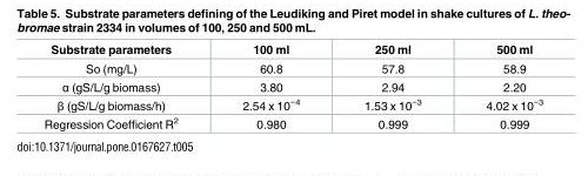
<table><thead><tr><td>Substrate parameters</td><td>100 ml</td><td>250 ml</td><td>500 ml</td></tr></thead><tbody><tr><td>So (mg/L)</td><td>60.8</td><td>57.8</td><td>58.9</td></tr><tr><td>α (gS/L/g biomass)</td><td>3.80</td><td>2.94</td><td>2.20</td></tr><tr><td>β (gS/L/g biomass/h)</td><td>2.54 x 10<sup>−4</sup></td><td>1.53 x 10<sup>−3</sup></td><td>4.02 x 10<sup>−3</sup></td></tr><tr><td>Regression Coefficient R<sup>2</sup></td><td>0.980</td><td>0.999</td><td>0.999</td></tr></tbody></table>